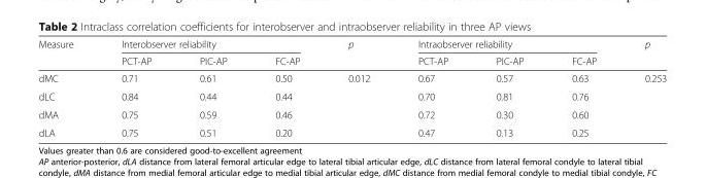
<table><thead><tr><td rowspan="2">Measure</td><td colspan="3">Interobserver reliability</td><td rowspan="2">p</td><td colspan="3">Intraobserver reliability</td><td rowspan="2">p</td></tr><tr><td>PCT-AP</td><td>PIC-AP</td><td>FC-AP</td><td>PCT-AP</td><td>PIC-AP</td><td>FC-AP</td></tr></thead><tbody><tr><td>dMC</td><td>0.71</td><td>0.61</td><td>0.50</td><td rowspan="4">0.012</td><td>0.67</td><td>0.57</td><td>0.63</td><td rowspan="4">0.253</td></tr><tr><td>dLC</td><td>0.84</td><td>0.44</td><td>0.44</td><td>0.70</td><td>0.81</td><td>0.76</td></tr><tr><td>dMA</td><td>0.75</td><td>0.59</td><td>0.46</td><td>0.72</td><td>0.30</td><td>0.60</td></tr><tr><td>dLA</td><td>0.75</td><td>0.51</td><td>0.20</td><td>0.47</td><td>0.13</td><td>0.25</td></tr></tbody></table>